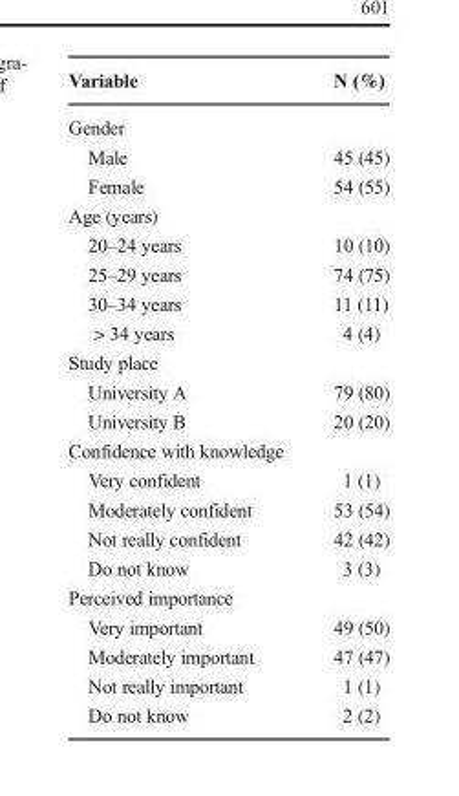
<table><thead><tr><td>Variable</td><td>N (%)</td></tr></thead><tbody><tr><td colspan="2">Gender</td></tr><tr><td>Male</td><td>45 (45)</td></tr><tr><td>Female</td><td>54 (55)</td></tr><tr><td colspan="2">Age (years)</td></tr><tr><td>20–24 years</td><td>10 (10)</td></tr><tr><td>25–29 years</td><td>74 (75)</td></tr><tr><td>30–34 years</td><td>11 (11)</td></tr><tr><td>&gt; 34 years</td><td>4 (4)</td></tr><tr><td colspan="2">Study place</td></tr><tr><td>University A</td><td>79 (80)</td></tr><tr><td>University B</td><td>20 (20)</td></tr><tr><td colspan="2">Confidence with knowledge</td></tr><tr><td>Very confident</td><td>1 (1)</td></tr><tr><td>Moderately confident</td><td>53 (54)</td></tr><tr><td>Not really confident</td><td>42 (42)</td></tr><tr><td>Do not know</td><td>3 (3)</td></tr><tr><td colspan="2">Perceived importance</td></tr><tr><td>Very important</td><td>49 (50)</td></tr><tr><td>Moderately important</td><td>47 (47)</td></tr><tr><td>Not really important</td><td>1 (1)</td></tr><tr><td>Do not know</td><td>2 (2)</td></tr></tbody></table>